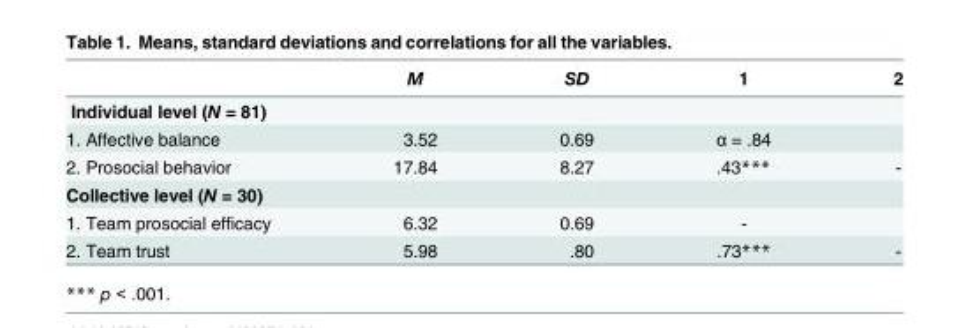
<table><thead><tr><td></td><td>M</td><td>SD</td><td>1</td><td>2</td></tr></thead><tbody><tr><td colspan="5">Individual level (N = 81)</td></tr><tr><td>1. Affective balance</td><td>3.52</td><td>0.69</td><td>α = .84</td><td></td></tr><tr><td>2. Prosocial behavior</td><td>17.84</td><td>8.27</td><td>.43***</td><td>-</td></tr><tr><td colspan="5">Collective level (N = 30)</td></tr><tr><td>1. Team prosocial efficacy</td><td>6.32</td><td>0.69</td><td>-</td><td></td></tr><tr><td>2. Team trust</td><td>5.98</td><td>.80</td><td>.73***</td><td>-</td></tr></tbody></table>